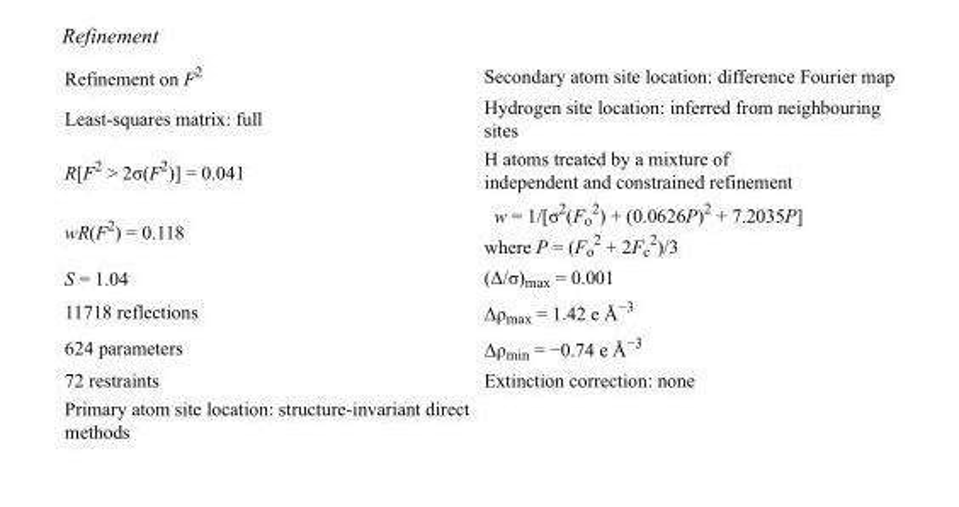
<table><tbody><tr><td>Refinement on F<sup>2</sup></td><td>Secondary atom site location: difference Fourier map</td></tr><tr><td>Least-squares matrix: full</td><td>Hydrogen site location: inferred from neighbouring sites</td></tr><tr><td>R[F<sup>2</sup> &gt; 2σ(F<sup>2</sup>)] = 0.041</td><td>H atoms treated by a mixture of independent and constrained refinement</td></tr><tr><td>wR(F<sup>2</sup>) = 0.118</td><td>w = 1/[σ<sup>2</sup>(F<sub>o</sub> <sup>2</sup>) + (0.0626P)<sup>2</sup> + 7.2035P] where P = (F<sub>o</sub> <sup>2</sup> + 2F<sub>c</sub> <sup>2</sup>)/3</td></tr><tr><td>S = 1.04</td><td>(Δ/σ)<sub>max</sub> = 0.001</td></tr><tr><td>11718 reflections</td><td>Δρ<sub>max</sub> = 1.42 e Å<sup>−3</sup></td></tr><tr><td>624 parameters</td><td>Δρ<sub>min</sub> = −0.74 e Å<sup>−3</sup></td></tr><tr><td>72 restraints</td><td>Extinction correction: none</td></tr><tr><td>Primary atom site location: structure-invariant direct methods</td><td></td></tr></tbody></table>